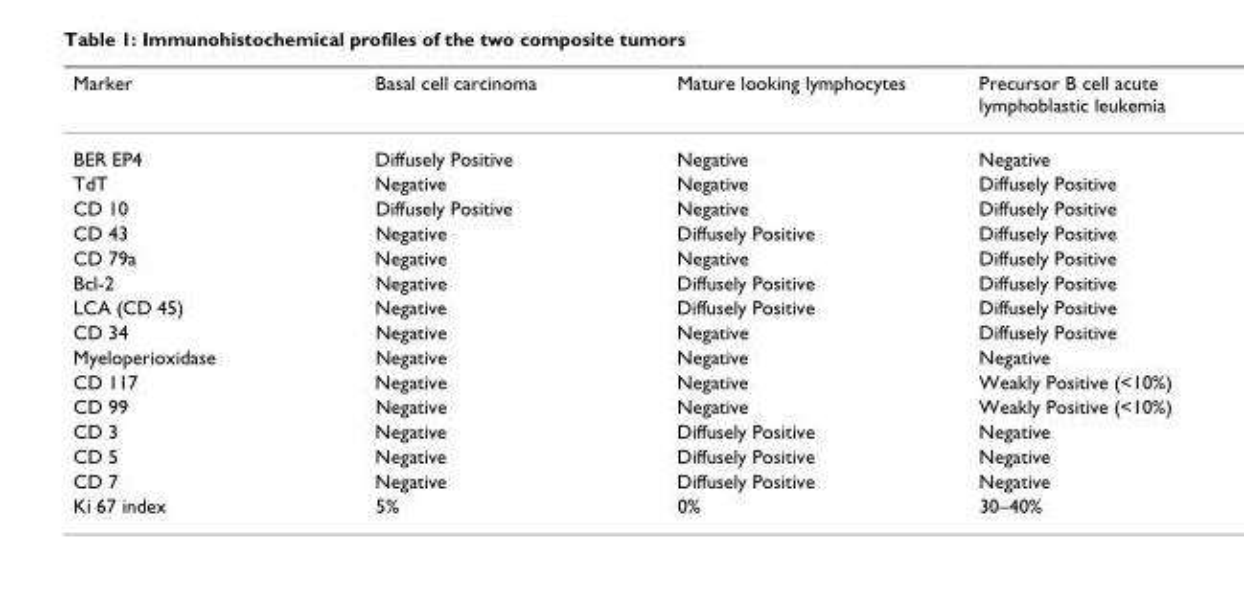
<table><thead><tr><td>Marker</td><td>Basal cell carcinoma</td><td>Mature looking lymphocytes</td><td>Precursor B cell acute lymphoblastic leukemia</td></tr></thead><tbody><tr><td>BER EP4</td><td>Diffusely Positive</td><td>Negative</td><td>Negative</td></tr><tr><td>TdT</td><td>Negative</td><td>Negative</td><td>Diffusely Positive</td></tr><tr><td>CD 10</td><td>Diffusely Positive</td><td>Negative</td><td>Diffusely Positive</td></tr><tr><td>CD 43</td><td>Negative</td><td>Diffusely Positive</td><td>Diffusely Positive</td></tr><tr><td>CD 79a</td><td>Negative</td><td>Negative</td><td>Diffusely Positive</td></tr><tr><td>Bcl-2</td><td>Negative</td><td>Diffusely Positive</td><td>Diffusely Positive</td></tr><tr><td>LCA (CD 45)</td><td>Negative</td><td>Diffusely Positive</td><td>Diffusely Positive</td></tr><tr><td>CD 34</td><td>Negative</td><td>Negative</td><td>Diffusely Positive</td></tr><tr><td>Myeloperioxidase</td><td>Negative</td><td>Negative</td><td>Negative</td></tr><tr><td>CD 117</td><td>Negative</td><td>Negative</td><td>Weakly Positive (&lt;10%)</td></tr><tr><td>CD 99</td><td>Negative</td><td>Negative</td><td>Weakly Positive (&lt;10%)</td></tr><tr><td>CD 3</td><td>Negative</td><td>Diffusely Positive</td><td>Negative</td></tr><tr><td>CD 5</td><td>Negative</td><td>Diffusely Positive</td><td>Negative</td></tr><tr><td>CD 7</td><td>Negative</td><td>Diffusely Positive</td><td>Negative</td></tr><tr><td>Ki 67 index</td><td>5%</td><td>0%</td><td>30–40%</td></tr></tbody></table>